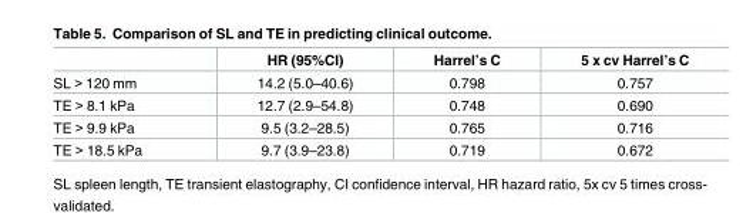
<table><thead><tr><td></td><td>HR (95%CI)</td><td>Harrel’s C</td><td>5 x cv Harrel’s C</td></tr></thead><tbody><tr><td>SL &gt; 120 mm</td><td>14.2 (5.0–40.6)</td><td>0.798</td><td>0.757</td></tr><tr><td>TE &gt; 8.1 kPa</td><td>12.7 (2.9–54.8)</td><td>0.748</td><td>0.690</td></tr><tr><td>TE &gt; 9.9 kPa</td><td>9.5 (3.2–28.5)</td><td>0.765</td><td>0.716</td></tr><tr><td>TE &gt; 18.5 kPa</td><td>9.7 (3.9–23.8)</td><td>0.719</td><td>0.672</td></tr></tbody></table>